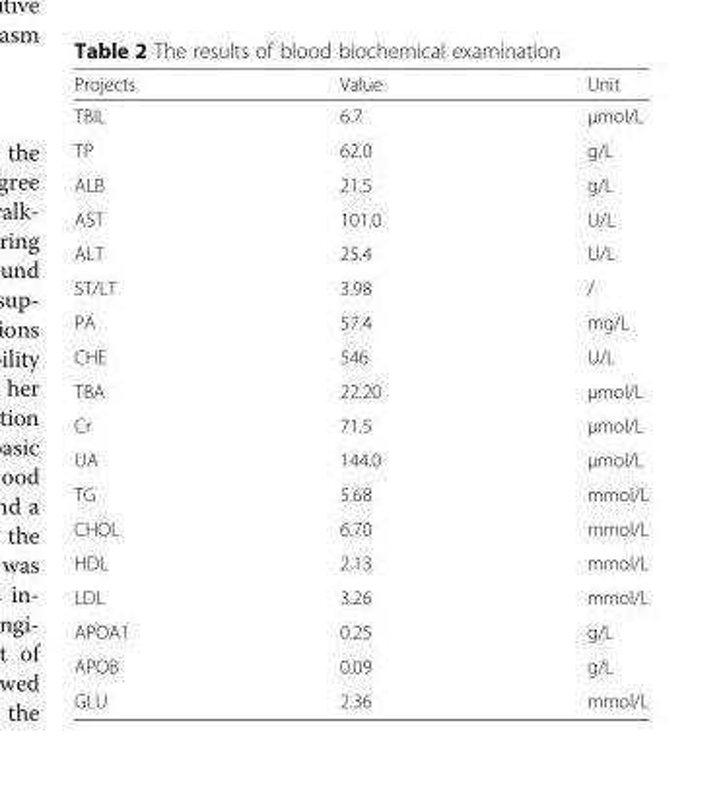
<table><thead><tr><td>Projects</td><td>Value</td><td>Unit</td></tr></thead><tbody><tr><td>TBIL</td><td>6.7</td><td>μmol/L</td></tr><tr><td>TP</td><td>62.0</td><td>g/L</td></tr><tr><td>ALB</td><td>21.5</td><td>g/L</td></tr><tr><td>AST</td><td>101.0</td><td>U/L</td></tr><tr><td>ALT</td><td>25.4</td><td>U/L</td></tr><tr><td>ST/LT</td><td>3.98</td><td>/</td></tr><tr><td>PA</td><td>57.4</td><td>mg/L</td></tr><tr><td>CHE</td><td>546</td><td>U/L</td></tr><tr><td>TBA</td><td>22.20</td><td>μmol/L</td></tr><tr><td>Cr</td><td>71.5</td><td>μmol/L</td></tr><tr><td>UA</td><td>144.0</td><td>μmol/L</td></tr><tr><td>TG</td><td>5.68</td><td>mmol/L</td></tr><tr><td>CHOL</td><td>6.70</td><td>mmol/L</td></tr><tr><td>HDL</td><td>2.13</td><td>mmol/L</td></tr><tr><td>LDL</td><td>3.26</td><td>mmol/L</td></tr><tr><td>APOA1</td><td>0.25</td><td>g/L</td></tr><tr><td>APOB</td><td>0.09</td><td>g/L</td></tr><tr><td>GLU</td><td>2.36</td><td>mmol/L</td></tr></tbody></table>